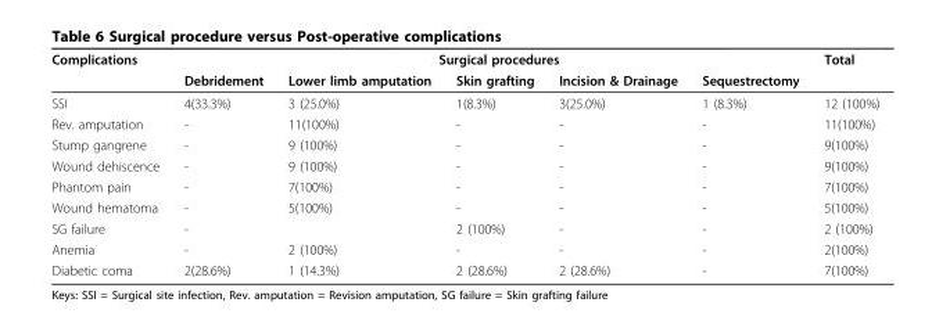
<table><thead><tr><td rowspan="2">Complications</td><td colspan="5">Surgical procedures</td><td rowspan="2">Total</td></tr><tr><td>Debridement</td><td>Lower limb amputation</td><td>Skin grafting</td><td>Incision &amp; Drainage</td><td>Sequestrectomy</td></tr></thead><tbody><tr><td>SSI</td><td>4(33.3%)</td><td>3 (25.0%)</td><td>1(8.3%)</td><td>3(25.0%)</td><td>1 (8.3%)</td><td>12 (100%)</td></tr><tr><td>Rev. amputation</td><td>-</td><td>11(100%)</td><td>-</td><td>-</td><td>-</td><td>11(100%)</td></tr><tr><td>Stump gangrene</td><td>-</td><td>9 (100%)</td><td>-</td><td>-</td><td>-</td><td>9(100%)</td></tr><tr><td>Wound dehiscence</td><td>-</td><td>9 (100%)</td><td>-</td><td>-</td><td>-</td><td>9(100%)</td></tr><tr><td>Phantom pain</td><td>-</td><td>7(100%)</td><td>-</td><td>-</td><td>-</td><td>7(100%)</td></tr><tr><td>Wound hematoma</td><td>-</td><td>5(100%)</td><td>-</td><td>-</td><td>-</td><td>5(100%)</td></tr><tr><td>SG failure</td><td>-</td><td></td><td>2 (100%)</td><td>-</td><td>-</td><td>2 (100%)</td></tr><tr><td>Anemia</td><td>-</td><td>2 (100%)</td><td>-</td><td>-</td><td>-</td><td>2(100%)</td></tr><tr><td>Diabetic coma</td><td>2(28.6%)</td><td>1 (14.3%)</td><td>2 (28.6%)</td><td>2 (28.6%)</td><td>-</td><td>7(100%)</td></tr></tbody></table>